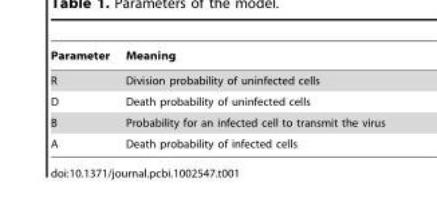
<table><thead><tr><td>Parameter</td><td>Meaning</td></tr></thead><tbody><tr><td>R</td><td>Division probability of uninfected cells</td></tr><tr><td>D</td><td>Death probability of uninfected cells</td></tr><tr><td>B</td><td>Probability for an infected cell to transmit the virus</td></tr><tr><td>A</td><td>Death probability of infected cells</td></tr></tbody></table>